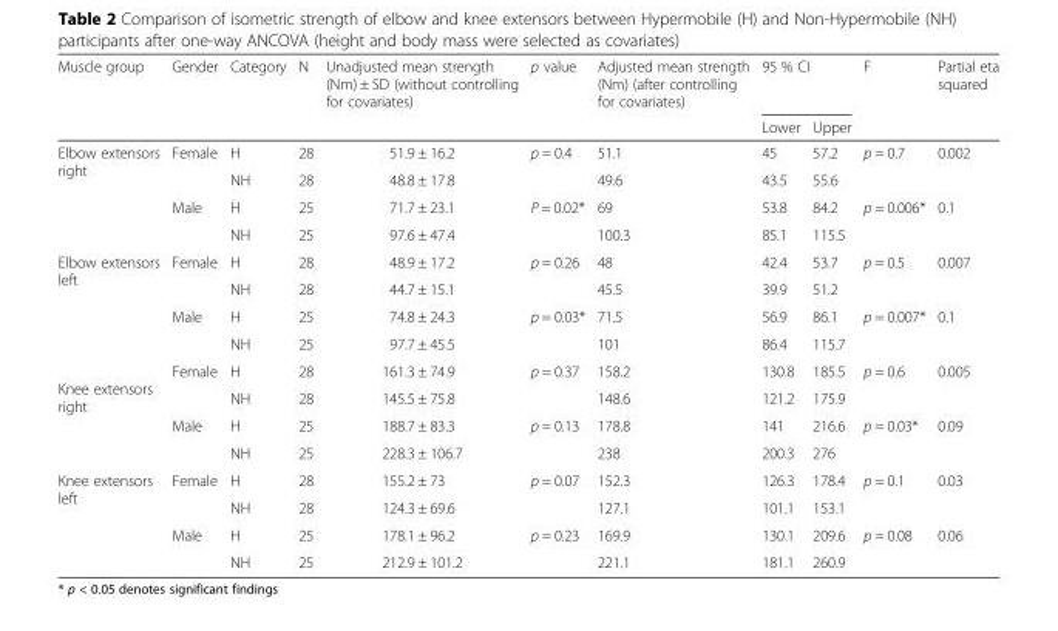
<table><thead><tr><td rowspan="2">Muscle group</td><td rowspan="2">Gender</td><td rowspan="2">Category</td><td rowspan="2">N</td><td rowspan="2">Unadjusted mean strength (Nm) ± SD (without controlling for covariates)</td><td rowspan="2">p value</td><td rowspan="2">Adjusted mean strength (Nm) (after controlling for covariates)</td><td colspan="2">95 % CI</td><td rowspan="2">F</td><td rowspan="2">Partial eta squared</td></tr><tr><td>Lower</td><td>Upper</td></tr></thead><tbody><tr><td rowspan="4">Elbow extensors right</td><td rowspan="2">Female</td><td>H</td><td>28</td><td>51.9 ± 16.2</td><td rowspan="2">p = 0.4</td><td>51.1</td><td>45</td><td>57.2</td><td rowspan="2">p = 0.7</td><td rowspan="2">0.002</td></tr><tr><td>NH</td><td>28</td><td>48.8 ± 17.8</td><td>49.6</td><td>43.5</td><td>55.6</td></tr><tr><td rowspan="2">Male</td><td>H</td><td>25</td><td>71.7 ± 23.1</td><td rowspan="2">P = 0.02*</td><td>69</td><td>53.8</td><td>84.2</td><td rowspan="2">p = 0.006*</td><td rowspan="2">0.1</td></tr><tr><td>NH</td><td>25</td><td>97.6 ± 47.4</td><td>100.3</td><td>85.1</td><td>115.5</td></tr><tr><td rowspan="4">Elbow extensors left</td><td rowspan="2">Female</td><td>H</td><td>28</td><td>48.9 ± 17.2</td><td rowspan="2">p = 0.26</td><td>48</td><td>42.4</td><td>53.7</td><td rowspan="2">p = 0.5</td><td rowspan="2">0.007</td></tr><tr><td>NH</td><td>28</td><td>44.7 ± 15.1</td><td>45.5</td><td>39.9</td><td>51.2</td></tr><tr><td rowspan="2">Male</td><td>H</td><td>25</td><td>74.8 ± 24.3</td><td rowspan="2">p = 0.03*</td><td>71.5</td><td>56.9</td><td>86.1</td><td rowspan="2">p = 0.007*</td><td rowspan="2">0.1</td></tr><tr><td>NH</td><td>25</td><td>97.7 ± 45.5</td><td>101</td><td>86.4</td><td>115.7</td></tr><tr><td rowspan="4">Knee extensors right</td><td rowspan="2">Female</td><td>H</td><td>28</td><td>161.3 ± 74.9</td><td rowspan="2">p = 0.37</td><td>158.2</td><td>130.8</td><td>185.5</td><td rowspan="2">p = 0.6</td><td rowspan="2">0.005</td></tr><tr><td>NH</td><td>28</td><td>145.5 ± 75.8</td><td>148.6</td><td>121.2</td><td>175.9</td></tr><tr><td rowspan="2">Male</td><td>H</td><td>25</td><td>188.7 ± 83.3</td><td rowspan="2">p = 0.13</td><td>178.8</td><td>141</td><td>216.6</td><td rowspan="2">p = 0.03*</td><td rowspan="2">0.09</td></tr><tr><td>NH</td><td>25</td><td>228.3 ± 106.7</td><td>238</td><td>200.3</td><td>276</td></tr><tr><td rowspan="4">Knee extensors left</td><td rowspan="2">Female</td><td>H</td><td>28</td><td>155.2 ± 73</td><td rowspan="2">p = 0.07</td><td>152.3</td><td>126.3</td><td>178.4</td><td rowspan="2">p = 0.1</td><td rowspan="2">0.03</td></tr><tr><td>NH</td><td>28</td><td>124.3 ± 69.6</td><td>127.1</td><td>101.1</td><td>153.1</td></tr><tr><td rowspan="2">Male</td><td>H</td><td>25</td><td>178.1 ± 96.2</td><td rowspan="2">p = 0.23</td><td>169.9</td><td>130.1</td><td>209.6</td><td rowspan="2">p = 0.08</td><td rowspan="2">0.06</td></tr><tr><td>NH</td><td>25</td><td>212.9 ± 101.2</td><td>221.1</td><td>181.1</td><td>260.9</td></tr></tbody></table>